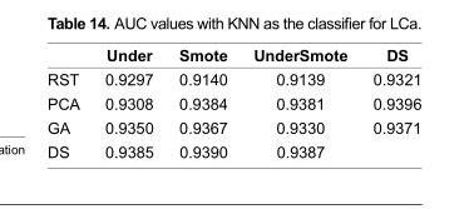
<table><thead><tr><td></td><td>Under</td><td>Smote</td><td>UnderSmote</td><td>DS</td></tr></thead><tbody><tr><td>RST</td><td>0.9297</td><td>0.9140</td><td>0.9139</td><td>0.9321</td></tr><tr><td>PCA</td><td>0.9308</td><td>0.9384</td><td>0.9381</td><td>0.9396</td></tr><tr><td>GA</td><td>0.9350</td><td>0.9367</td><td>0.9330</td><td>0.9371</td></tr><tr><td>DS</td><td>0.9385</td><td>0.9390</td><td>0.9387</td><td></td></tr></tbody></table>